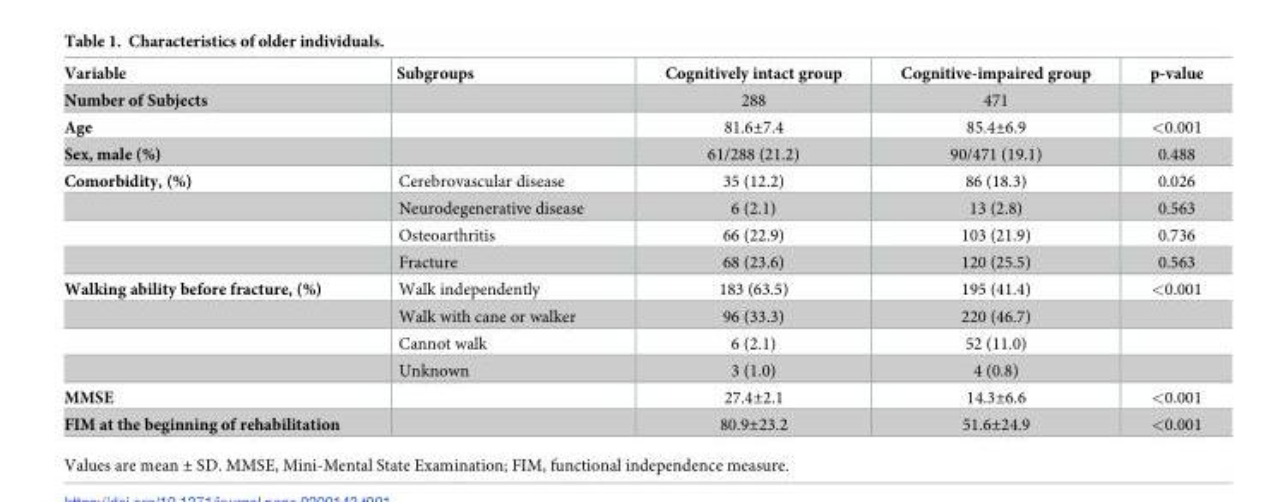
<table><thead><tr><td>Variable</td><td>Subgroups</td><td>Cognitively intact group</td><td>Cognitive-impaired group</td><td>p-value</td></tr></thead><tbody><tr><td>Number of Subjects</td><td></td><td>288</td><td>471</td><td></td></tr><tr><td>Age</td><td></td><td>81.6±7.4</td><td>85.4±6.9</td><td>&lt;0.001</td></tr><tr><td>Sex, male (%)</td><td></td><td>61/288 (21.2)</td><td>90/471 (19.1)</td><td>0.488</td></tr><tr><td rowspan="4">Comorbidity, (%)</td><td>Cerebrovascular disease</td><td>35 (12.2)</td><td>86 (18.3)</td><td>0.026</td></tr><tr><td>Neurodegenerative disease</td><td>6 (2.1)</td><td>13 (2.8)</td><td>0.563</td></tr><tr><td>Osteoarthritis</td><td>66 (22.9)</td><td>103 (21.9)</td><td>0.736</td></tr><tr><td>Fracture</td><td>68 (23.6)</td><td>120 (25.5)</td><td>0.563</td></tr><tr><td rowspan="4">Walking ability before fracture, (%)</td><td>Walk independently</td><td>183 (63.5)</td><td>195 (41.4)</td><td>&lt;0.001</td></tr><tr><td>Walk with cane or walker</td><td>96 (33.3)</td><td>220 (46.7)</td><td></td></tr><tr><td>Cannot walk</td><td>6 (2.1)</td><td>52 (11.0)</td><td></td></tr><tr><td>Unknown</td><td>3 (1.0)</td><td>4 (0.8)</td><td></td></tr><tr><td>MMSE</td><td></td><td>27.4±2.1</td><td>14.3±6.6</td><td>&lt;0.001</td></tr><tr><td>FIM at the beginning of rehabilitation</td><td></td><td>80.9±23.2</td><td>51.6±24.9</td><td>&lt;0.001</td></tr></tbody></table>